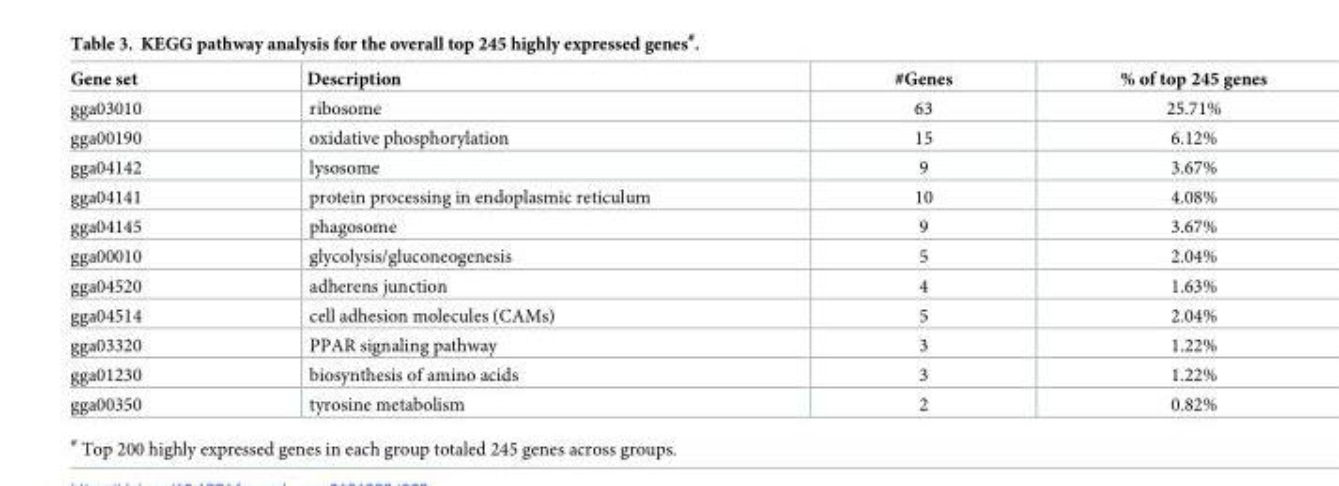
<table><thead><tr><td>Gene set</td><td>Description</td><td>#Genes</td><td>% of top 245 genes</td></tr></thead><tbody><tr><td>gga03010</td><td>ribosome</td><td>63</td><td>25.71%</td></tr><tr><td>gga00190</td><td>oxidative phosphorylation</td><td>15</td><td>6.12%</td></tr><tr><td>gga04142</td><td>lysosome</td><td>9</td><td>3.67%</td></tr><tr><td>gga04141</td><td>protein processing in endoplasmic reticulum</td><td>10</td><td>4.08%</td></tr><tr><td>gga04145</td><td>phagosome</td><td>9</td><td>3.67%</td></tr><tr><td>gga00010</td><td>glycolysis/gluconeogenesis</td><td>5</td><td>2.04%</td></tr><tr><td>gga04520</td><td>adherens junction</td><td>4</td><td>1.63%</td></tr><tr><td>gga04514</td><td>cell adhesion molecules (CAMs)</td><td>5</td><td>2.04%</td></tr><tr><td>gga03320</td><td>PPAR signaling pathway</td><td>3</td><td>1.22%</td></tr><tr><td>gga01230</td><td>biosynthesis of amino acids</td><td>3</td><td>1.22%</td></tr><tr><td>gga00350</td><td>tyrosine metabolism</td><td>2</td><td>0.82%</td></tr></tbody></table>